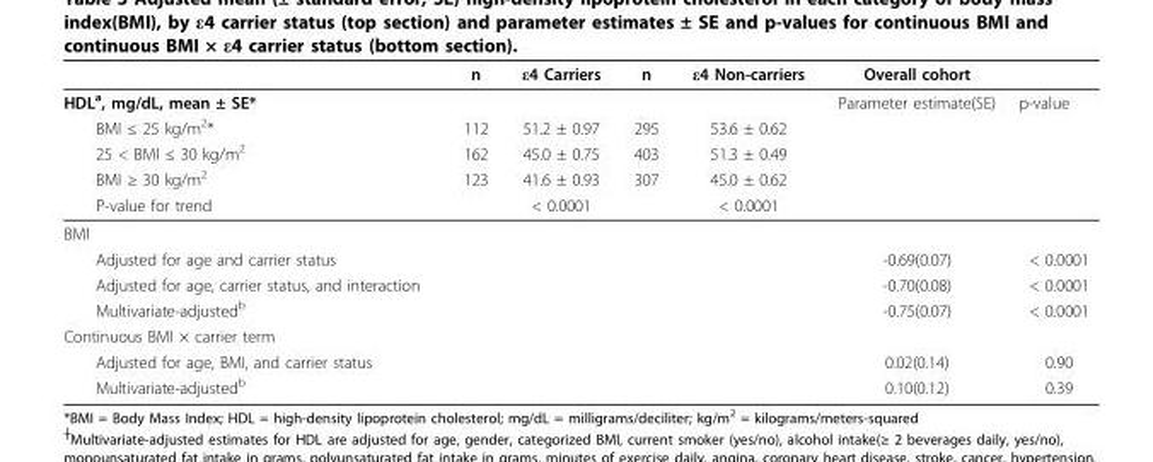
<table><thead><tr><td></td><td>n</td><td>ε4 Carriers</td><td>n</td><td>ε4 Non-carriers</td><td>Overall cohort</td><td></td></tr></thead><tbody><tr><td>HDL<sup>a</sup>, mg/dL, mean ± SE*</td><td></td><td></td><td></td><td></td><td>Parameter estimate(SE)</td><td>p-value</td></tr><tr><td>BMI ≤ 25 kg/m<sup>2</sup>*</td><td>112</td><td>51.2 ± 0.97</td><td>295</td><td>53.6 ± 0.62</td><td></td><td></td></tr><tr><td>25 &lt; BMI ≤ 30 kg/m<sup>2</sup></td><td>162</td><td>45.0 ± 0.75</td><td>403</td><td>51.3 ± 0.49</td><td></td><td></td></tr><tr><td>BMI ≥ 30 kg/m<sup>2</sup></td><td>123</td><td>41.6 ± 0.93</td><td>307</td><td>45.0 ± 0.62</td><td></td><td></td></tr><tr><td>P-value for trend</td><td></td><td>&lt; 0.0001</td><td></td><td>&lt; 0.0001</td><td></td><td></td></tr><tr><td colspan="7">BMI</td></tr><tr><td>Adjusted for age and carrier status</td><td></td><td></td><td></td><td></td><td>-0.69(0.07)</td><td>&lt; 0.0001</td></tr><tr><td>Adjusted for age, carrier status, and interaction</td><td></td><td></td><td></td><td></td><td>-0.70(0.08)</td><td>&lt; 0.0001</td></tr><tr><td>Multivariate-adjusted<sup>b</sup></td><td></td><td></td><td></td><td></td><td>-0.75(0.07)</td><td>&lt; 0.0001</td></tr><tr><td colspan="7">Continuous BMI × carrier term</td></tr><tr><td>Adjusted for age, BMI, and carrier status</td><td></td><td></td><td></td><td></td><td>0.02(0.14)</td><td>0.90</td></tr><tr><td>Multivariate-adjusted<sup>b</sup></td><td></td><td></td><td></td><td></td><td>0.10(0.12)</td><td>0.39</td></tr></tbody></table>